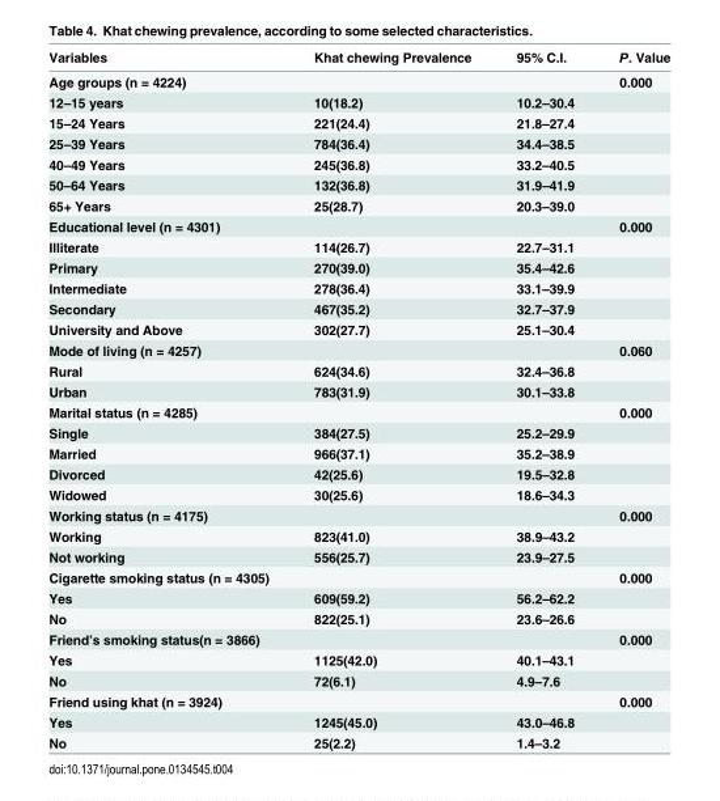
<table><thead><tr><td>Variables</td><td>Khat chewing Prevalence</td><td>95% C.I.</td><td>P. Value</td></tr></thead><tbody><tr><td>Age groups (n = 4224)</td><td></td><td></td><td>0.000</td></tr><tr><td>12–15 years</td><td>10(18.2)</td><td>10.2–30.4</td><td></td></tr><tr><td>15–24 Years</td><td>221(24.4)</td><td>21.8–27.4</td><td></td></tr><tr><td>25–39 Years</td><td>784(36.4)</td><td>34.4–38.5</td><td></td></tr><tr><td>40–49 Years</td><td>245(36.8)</td><td>33.2–40.5</td><td></td></tr><tr><td>50–64 Years</td><td>132(36.8)</td><td>31.9–41.9</td><td></td></tr><tr><td>65+ Years</td><td>25(28.7)</td><td>20.3–39.0</td><td></td></tr><tr><td>Educational level (n = 4301)</td><td></td><td></td><td>0.000</td></tr><tr><td>Illiterate</td><td>114(26.7)</td><td>22.7–31.1</td><td></td></tr><tr><td>Primary</td><td>270(39.0)</td><td>35.4–42.6</td><td></td></tr><tr><td>Intermediate</td><td>278(36.4)</td><td>33.1–39.9</td><td></td></tr><tr><td>Secondary</td><td>467(35.2)</td><td>32.7–37.9</td><td></td></tr><tr><td>University and Above</td><td>302(27.7)</td><td>25.1–30.4</td><td></td></tr><tr><td>Mode of living (n = 4257)</td><td></td><td></td><td>0.060</td></tr><tr><td>Rural</td><td>624(34.6)</td><td>32.4–36.8</td><td></td></tr><tr><td>Urban</td><td>783(31.9)</td><td>30.1–33.8</td><td></td></tr><tr><td>Marital status (n = 4285)</td><td></td><td></td><td>0.000</td></tr><tr><td>Single</td><td>384(27.5)</td><td>25.2–29.9</td><td></td></tr><tr><td>Married</td><td>966(37.1)</td><td>35.2–38.9</td><td></td></tr><tr><td>Divorced</td><td>42(25.6)</td><td>19.5–32.8</td><td></td></tr><tr><td>Widowed</td><td>30(25.6)</td><td>18.6–34.3</td><td></td></tr><tr><td>Working status (n = 4175)</td><td></td><td></td><td>0.000</td></tr><tr><td>Working</td><td>823(41.0)</td><td>38.9–43.2</td><td></td></tr><tr><td>Not working</td><td>556(25.7)</td><td>23.9–27.5</td><td></td></tr><tr><td>Cigarette smoking status (n = 4305)</td><td></td><td></td><td>0.000</td></tr><tr><td>Yes</td><td>609(59.2)</td><td>56.2–62.2</td><td></td></tr><tr><td>No</td><td>822(25.1)</td><td>23.6–26.6</td><td></td></tr><tr><td>Friend’s smoking status(n = 3866)</td><td></td><td></td><td>0.000</td></tr><tr><td>Yes</td><td>1125(42.0)</td><td>40.1–43.1</td><td></td></tr><tr><td>No</td><td>72(6.1)</td><td>4.9–7.6</td><td></td></tr><tr><td>Friend using khat (n = 3924)</td><td></td><td></td><td>0.000</td></tr><tr><td>Yes</td><td>1245(45.0)</td><td>43.0–46.8</td><td></td></tr><tr><td>No</td><td>25(2.2)</td><td>1.4–3.2</td><td></td></tr></tbody></table>